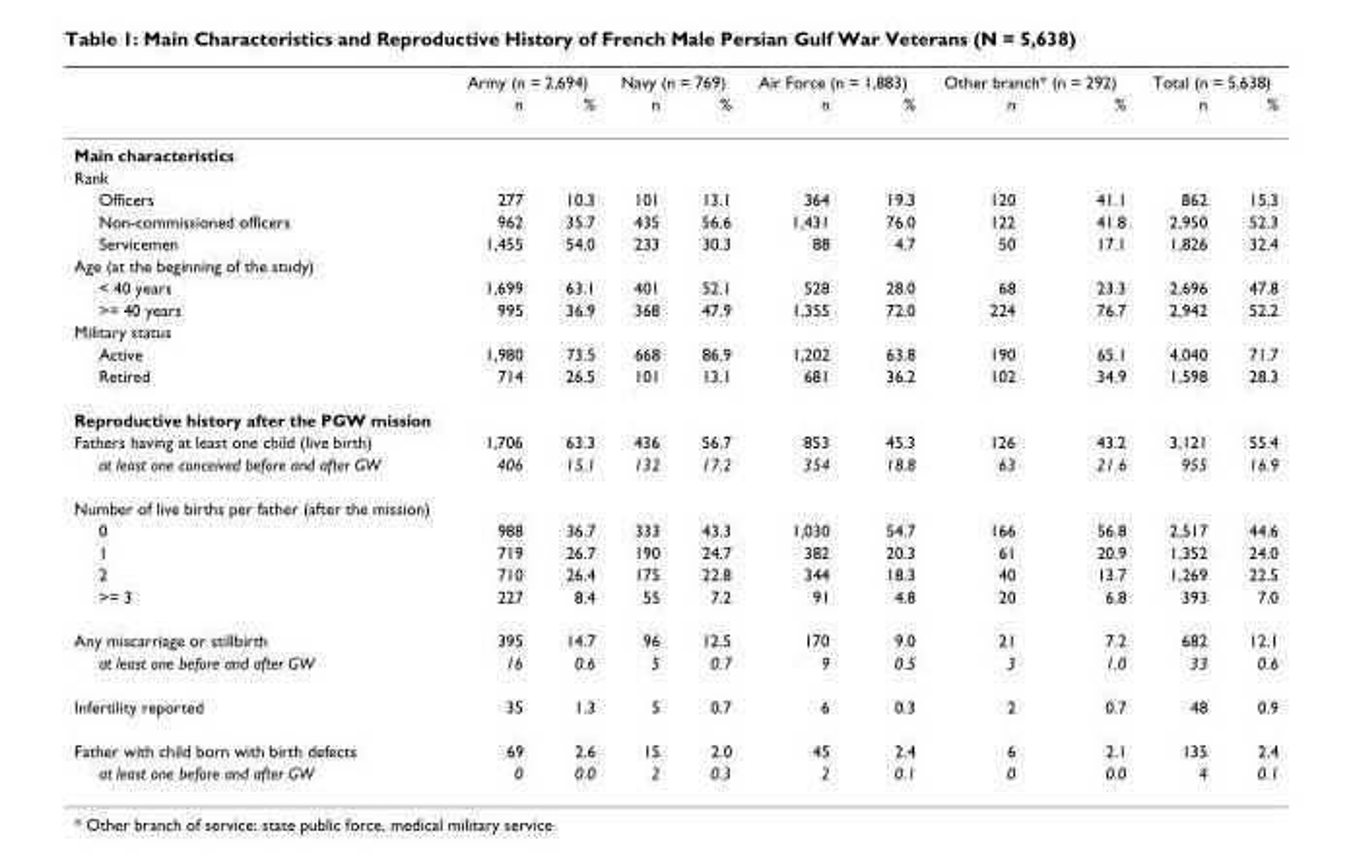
<table><thead><tr><td rowspan="2"></td><td colspan="2">Army (n = 2,694)</td><td colspan="2">Navy (n = 769)</td><td colspan="2">Air Force (n = 1,883)</td><td colspan="2">Other branch* (n = 292)</td><td colspan="2">Total (n = 5,638)</td></tr><tr><td>n</td><td>%</td><td>n</td><td>%</td><td>n</td><td>%</td><td>n</td><td>%</td><td>n</td><td>%</td></tr></thead><tbody><tr><td colspan="11">Main characteristics</td></tr><tr><td colspan="11">Rank</td></tr><tr><td>Officers</td><td>277</td><td>10.3</td><td>101</td><td>13.1</td><td>364</td><td>19.3</td><td>120</td><td>41.1</td><td>862</td><td>15.3</td></tr><tr><td>Non-commissioned officers</td><td>962</td><td>35.7</td><td>435</td><td>56.6</td><td>1,431</td><td>76.0</td><td>122</td><td>41.8</td><td>2,950</td><td>52.3</td></tr><tr><td>Servicemen</td><td>1,455</td><td>54.0</td><td>233</td><td>30.3</td><td>88</td><td>4.7</td><td>50</td><td>17.1</td><td>1,826</td><td>32.4</td></tr><tr><td colspan="11">Age (at the beginning of the study)</td></tr><tr><td>&lt; 40 years</td><td>1,699</td><td>63.1</td><td>401</td><td>52.1</td><td>528</td><td>28.0</td><td>68</td><td>23.3</td><td>2,696</td><td>47.8</td></tr><tr><td>&gt;= 40 years</td><td>995</td><td>36.9</td><td>368</td><td>47.9</td><td>1,355</td><td>72.0</td><td>224</td><td>76.7</td><td>2,942</td><td>52.2</td></tr><tr><td colspan="11">Military status</td></tr><tr><td>Active</td><td>1,980</td><td>73.5</td><td>668</td><td>86.9</td><td>1,202</td><td>63.8</td><td>190</td><td>65.1</td><td>4,040</td><td>71.7</td></tr><tr><td>Retired</td><td>714</td><td>26.5</td><td>101</td><td>13.1</td><td>681</td><td>36.2</td><td>102</td><td>34.9</td><td>1,598</td><td>28.3</td></tr><tr><td colspan="11">Reproductive history after the PGW mission</td></tr><tr><td>Fathers having at least one child (live birth)</td><td>1,706</td><td>63.3</td><td>436</td><td>56.7</td><td>853</td><td>45.3</td><td>126</td><td>43.2</td><td>3,121</td><td>55.4</td></tr><tr><td>at least one conceived before and after GW</td><td>406</td><td>15.1</td><td>132</td><td>17.2</td><td>354</td><td>18.8</td><td>63</td><td>21.6</td><td>955</td><td>16.9</td></tr><tr><td colspan="11">Number of live births per father (after the mission)</td></tr><tr><td>0</td><td>988</td><td>36.7</td><td>333</td><td>43.3</td><td>1,030</td><td>54.7</td><td>166</td><td>56.8</td><td>2,517</td><td>44.6</td></tr><tr><td>1</td><td>719</td><td>26.7</td><td>190</td><td>24.7</td><td>382</td><td>20.3</td><td>61</td><td>20.9</td><td>1,352</td><td>24.0</td></tr><tr><td>2</td><td>710</td><td>26.4</td><td>175</td><td>22.8</td><td>344</td><td>18.3</td><td>40</td><td>13.7</td><td>1,269</td><td>22.5</td></tr><tr><td>&gt;= 3</td><td>227</td><td>8.4</td><td>55</td><td>7.2</td><td>91</td><td>4.8</td><td>20</td><td>6.8</td><td>393</td><td>7.0</td></tr><tr><td>Any miscarriage or stillbirth</td><td>395</td><td>14.7</td><td>96</td><td>12.5</td><td>170</td><td>9.0</td><td>21</td><td>7.2</td><td>682</td><td>12.1</td></tr><tr><td>at least one before and after GW</td><td>16</td><td>0.6</td><td>5</td><td>0.7</td><td>9</td><td>0.5</td><td>3</td><td>1.0</td><td>33</td><td>0.6</td></tr><tr><td>Infertility reported</td><td>35</td><td>1.3</td><td>5</td><td>0.7</td><td>6</td><td>0.3</td><td>2</td><td>0.7</td><td>48</td><td>0.9</td></tr><tr><td>Father with child born with birth defects</td><td>69</td><td>2.6</td><td>15</td><td>2.0</td><td>45</td><td>2.4</td><td>6</td><td>2.1</td><td>135</td><td>2.4</td></tr><tr><td>at least one before and after GW</td><td>0</td><td>0.0</td><td>2</td><td>0.3</td><td>2</td><td>0.1</td><td>0</td><td>0.0</td><td>4</td><td>0.1</td></tr></tbody></table>